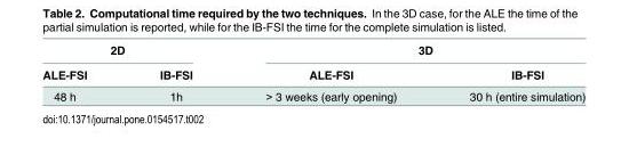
<table><thead><tr><td colspan="2">2D</td><td colspan="2">3D</td></tr><tr><td>ALE-FSI</td><td>IB-FSI</td><td>ALE-FSI</td><td>IB-FSI</td></tr></thead><tbody><tr><td>48 h</td><td>1h</td><td>&gt; 3 weeks (early opening)</td><td>30 h (entire simulation)</td></tr></tbody></table>